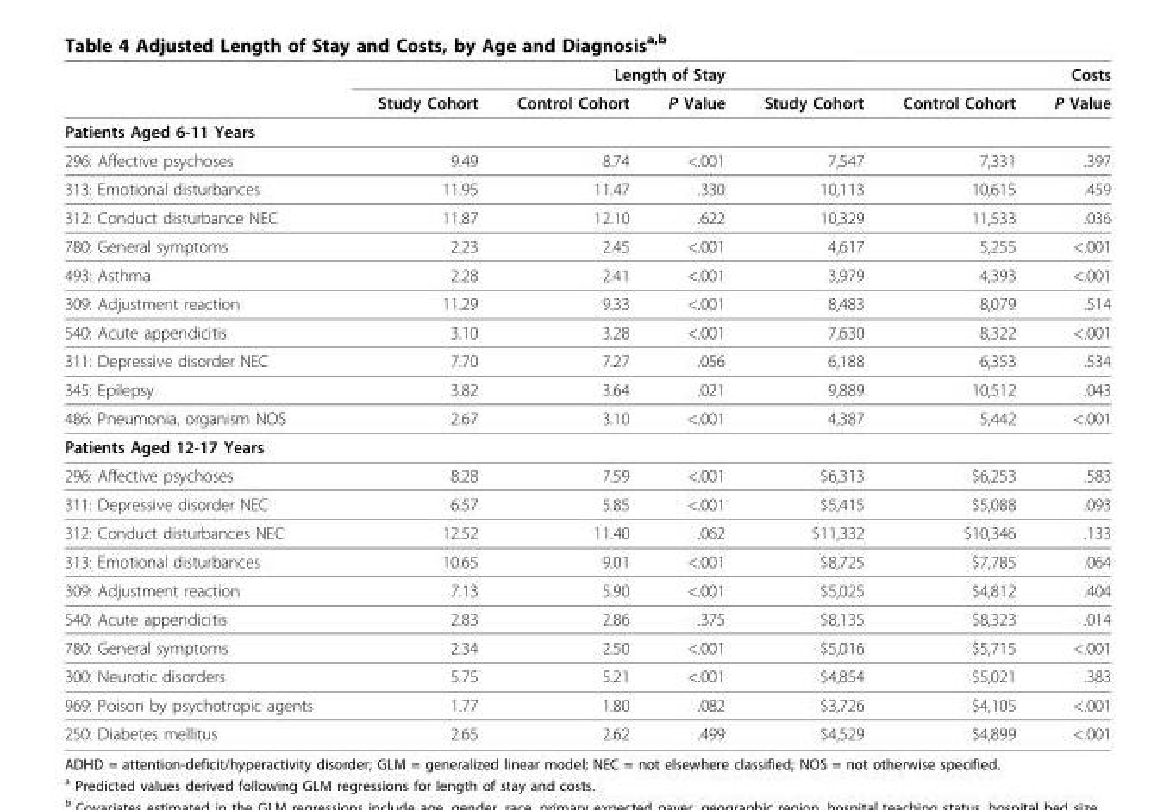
<table><thead><tr><td rowspan="2"></td><td colspan="3">Length of Stay</td><td colspan="3">Costs</td></tr><tr><td>Study Cohort</td><td>Control Cohort</td><td>P Value</td><td>Study Cohort</td><td>Control Cohort</td><td>P Value</td></tr></thead><tbody><tr><td colspan="7">Patients Aged 6-11 Years</td></tr><tr><td>296: Affective psychoses</td><td>9.49</td><td>8.74</td><td>&lt;.001</td><td>7,547</td><td>7,331</td><td>.397</td></tr><tr><td>313: Emotional disturbances</td><td>11.95</td><td>11.47</td><td>.330</td><td>10,113</td><td>10,615</td><td>.459</td></tr><tr><td>312: Conduct disturbance NEC</td><td>11.87</td><td>12.10</td><td>.622</td><td>10,329</td><td>11,533</td><td>.036</td></tr><tr><td>780: General symptoms</td><td>2.23</td><td>2.45</td><td>&lt;.001</td><td>4,617</td><td>5,255</td><td>&lt;.001</td></tr><tr><td>493: Asthma</td><td>2.28</td><td>2.41</td><td>&lt;.001</td><td>3,979</td><td>4,393</td><td>&lt;.001</td></tr><tr><td>309: Adjustment reaction</td><td>11.29</td><td>9.33</td><td>&lt;.001</td><td>8,483</td><td>8,079</td><td>.514</td></tr><tr><td>540: Acute appendicitis</td><td>3.10</td><td>3.28</td><td>&lt;.001</td><td>7,630</td><td>8,322</td><td>&lt;.001</td></tr><tr><td>311: Depressive disorder NEC</td><td>7.70</td><td>7.27</td><td>.056</td><td>6,188</td><td>6,353</td><td>.534</td></tr><tr><td>345: Epilepsy</td><td>3.82</td><td>3.64</td><td>.021</td><td>9,889</td><td>10,512</td><td>.043</td></tr><tr><td>486: Pneumonia, organism NOS</td><td>2.67</td><td>3.10</td><td>&lt;.001</td><td>4,387</td><td>5,442</td><td>&lt;.001</td></tr><tr><td colspan="7">Patients Aged 12-17 Years</td></tr><tr><td>296: Affective psychoses</td><td>8.28</td><td>7.59</td><td>&lt;.001</td><td>$6,313</td><td>$6,253</td><td>.583</td></tr><tr><td>311: Depressive disorder NEC</td><td>6.57</td><td>5.85</td><td>&lt;.001</td><td>$5,415</td><td>$5,088</td><td>.093</td></tr><tr><td>312: Conduct disturbances NEC</td><td>12.52</td><td>11.40</td><td>.062</td><td>$11,332</td><td>$10,346</td><td>.133</td></tr><tr><td>313: Emotional disturbances</td><td>10.65</td><td>9.01</td><td>&lt;.001</td><td>$8,725</td><td>$7,785</td><td>.064</td></tr><tr><td>309: Adjustment reaction</td><td>7.13</td><td>5.90</td><td>&lt;.001</td><td>$5,025</td><td>$4,812</td><td>.404</td></tr><tr><td>540: Acute appendicitis</td><td>2.83</td><td>2.86</td><td>.375</td><td>$8,135</td><td>$8,323</td><td>.014</td></tr><tr><td>780: General symptoms</td><td>2.34</td><td>2.50</td><td>&lt;.001</td><td>$5,016</td><td>$5,715</td><td>&lt;.001</td></tr><tr><td>300: Neurotic disorders</td><td>5.75</td><td>5.21</td><td>&lt;.001</td><td>$4,854</td><td>$5,021</td><td>.383</td></tr><tr><td>969: Poison by psychotropic agents</td><td>1.77</td><td>1.80</td><td>.082</td><td>$3,726</td><td>$4,105</td><td>&lt;.001</td></tr><tr><td>250: Diabetes mellitus</td><td>2.65</td><td>2.62</td><td>.499</td><td>$4,529</td><td>$4,899</td><td>&lt;.001</td></tr></tbody></table>